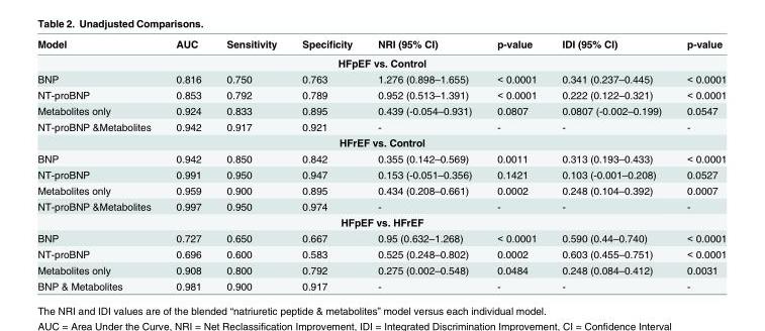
<table><thead><tr><td>Model</td><td>AUC</td><td>Sensitivity</td><td>Specificity</td><td>NRI (95% CI)</td><td>p-value</td><td>IDI (95% CI)</td><td>p-value</td></tr></thead><tbody><tr><td colspan="8">HFpEF vs. Control</td></tr><tr><td>BNP</td><td>0.816</td><td>0.750</td><td>0.763</td><td>1.276 (0.898–1.655)</td><td>&lt; 0.0001</td><td>0.341 (0.237–0.445)</td><td>&lt; 0.0001</td></tr><tr><td>NT-proBNP</td><td>0.853</td><td>0.792</td><td>0.789</td><td>0.952 (0.513–1.391)</td><td>&lt; 0.0001</td><td>0.222 (0.122–0.321)</td><td>&lt; 0.0001</td></tr><tr><td>Metabolites only</td><td>0.924</td><td>0.833</td><td>0.895</td><td>0.439 (-0.054–0.931)</td><td>0.0807</td><td>0.0807 (-0.002–0.199)</td><td>0.0547</td></tr><tr><td>NT-proBNP &amp;Metabolites</td><td>0.942</td><td>0.917</td><td>0.921</td><td>-</td><td>-</td><td>-</td><td>-</td></tr><tr><td colspan="8">HFrEF vs. Control</td></tr><tr><td>BNP</td><td>0.942</td><td>0.850</td><td>0.842</td><td>0.355 (0.142–0.569)</td><td>0.0011</td><td>0.313 (0.193–0.433)</td><td>&lt; 0.0001</td></tr><tr><td>NT-proBNP</td><td>0.991</td><td>0.950</td><td>0.947</td><td>0.153 (-0.051–0.356)</td><td>0.1421</td><td>0.103 (-0.001–0.208)</td><td>0.0527</td></tr><tr><td>Metabolites only</td><td>0.959</td><td>0.900</td><td>0.895</td><td>0.434 (0.208–0.661)</td><td>0.0002</td><td>0.248 (0.104–0.392)</td><td>0.0007</td></tr><tr><td>NT-proBNP &amp;Metabolites</td><td>0.997</td><td>0.950</td><td>0.974</td><td>-</td><td>-</td><td>-</td><td>-</td></tr><tr><td colspan="8">HFpEF vs. HFrEF</td></tr><tr><td>BNP</td><td>0.727</td><td>0.650</td><td>0.667</td><td>0.95 (0.632–1.268)</td><td>&lt; 0.0001</td><td>0.590 (0.44–0.740)</td><td>&lt; 0.0001</td></tr><tr><td>NT-proBNP</td><td>0.696</td><td>0.600</td><td>0.583</td><td>0.525 (0.248–0.802)</td><td>0.0002</td><td>0.603 (0.455–0.751)</td><td>&lt; 0.0001</td></tr><tr><td>Metabolites only</td><td>0.908</td><td>0.800</td><td>0.792</td><td>0.275 (0.002–0.548)</td><td>0.0484</td><td>0.248 (0.084–0.412)</td><td>0.0031</td></tr><tr><td>BNP &amp; Metabolites</td><td>0.981</td><td>0.900</td><td>0.917</td><td>-</td><td>-</td><td>-</td><td>-</td></tr></tbody></table>